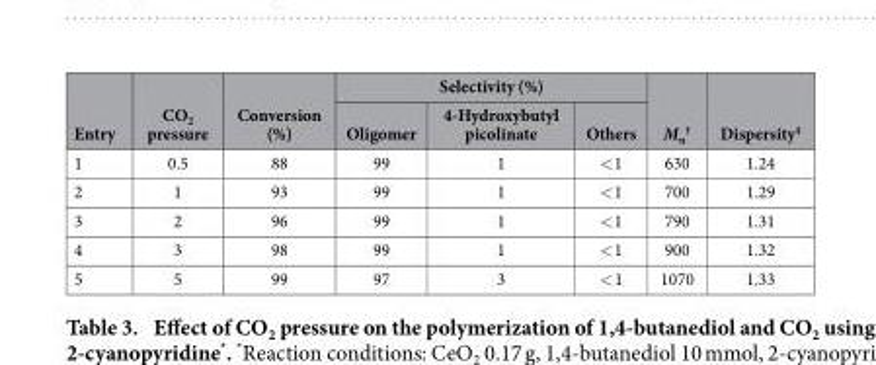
<table><thead><tr><td rowspan="2">Entry</td><td rowspan="2">CO<sub>2</sub> pressure</td><td rowspan="2">Conversion (%)</td><td colspan="3">Selectivity (%)</td><td rowspan="2">M<sub>n</sub> †</td><td rowspan="2">Dispersity‡</td></tr><tr><td>Oligomer</td><td>4-Hydroxybutyl picolinate</td><td>Others</td></tr></thead><tbody><tr><td>1</td><td>0.5</td><td>88</td><td>99</td><td>1</td><td>&lt; 1</td><td>630</td><td>1.24</td></tr><tr><td>2</td><td>1</td><td>93</td><td>99</td><td>1</td><td>&lt; 1</td><td>700</td><td>1.29</td></tr><tr><td>3</td><td>2</td><td>96</td><td>99</td><td>1</td><td>&lt; 1</td><td>790</td><td>1.31</td></tr><tr><td>4</td><td>3</td><td>98</td><td>99</td><td>1</td><td>&lt; 1</td><td>900</td><td>1.32</td></tr><tr><td>5</td><td>5</td><td>99</td><td>97</td><td>3</td><td>&lt; 1</td><td>1070</td><td>1.33</td></tr></tbody></table>